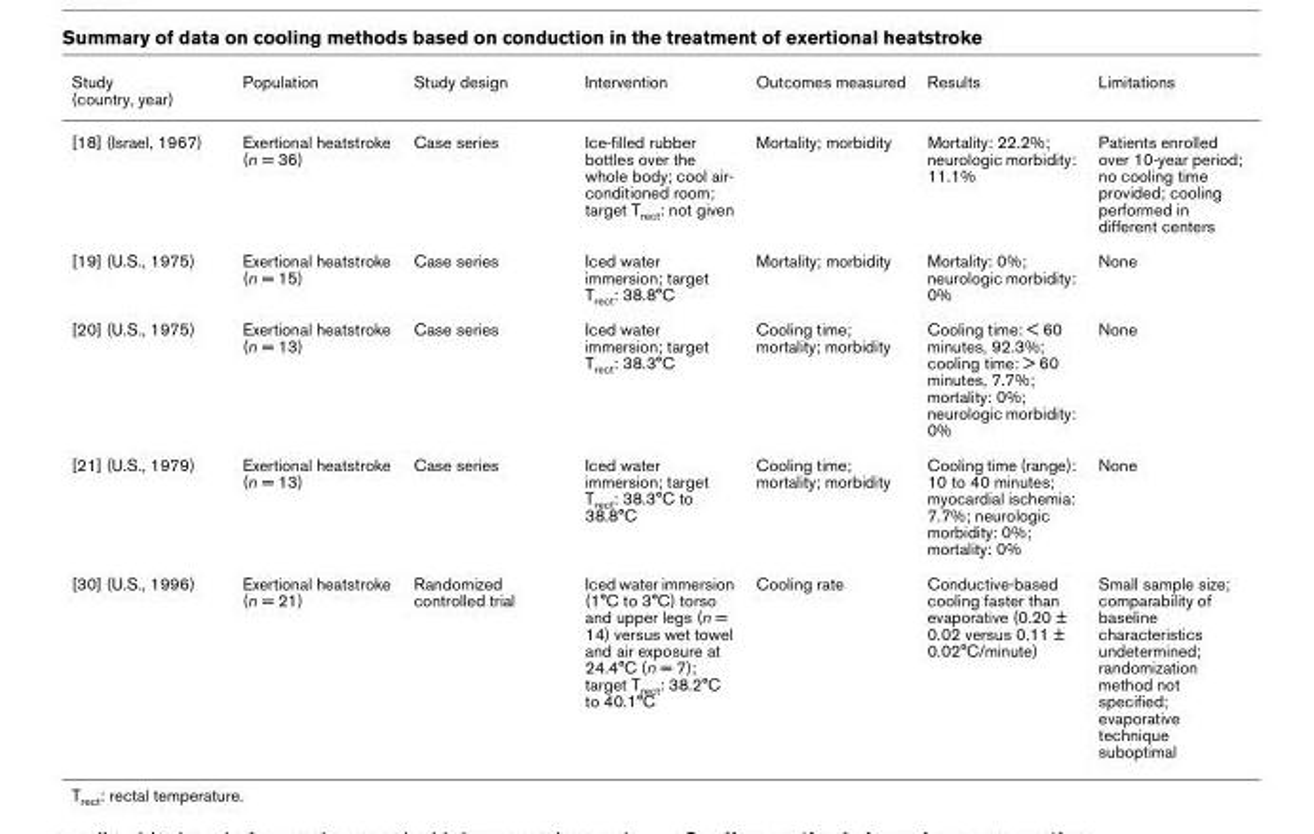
<table><thead><tr><td>Study (country, year)</td><td>Population</td><td>Study design</td><td>Intervention</td><td>Outcomes measured</td><td>Results</td><td>Limitations</td></tr></thead><tbody><tr><td>[18] (Israel, 1967)</td><td>Exertional heatstroke (n = 36)</td><td>Case series</td><td>Ice-filled rubber bottles over the whole body; cool air- conditioned room; target T<sub>rect</sub>: not given</td><td>Mortality; morbidity</td><td>Mortality: 22.2%; neurologic morbidity: 11.1%</td><td>Patients enrolled over 10-year period; no cooling time provided; cooling performed in different centers</td></tr><tr><td>[19] (U.S., 1975)</td><td>Exertional heatstroke (n = 15)</td><td>Case series</td><td>Iced water immersion; target T<sub>rect</sub>: 38.8°C</td><td>Mortality; morbidity</td><td>Mortality: 0%; neurologic morbidity: 0%</td><td>None</td></tr><tr><td>[20] (U.S., 1975)</td><td>Exertional heatstroke (n = 13)</td><td>Case series</td><td>Iced water immersion; target T<sub>rect</sub>: 38.3°C</td><td>Cooling time; mortality; morbidity</td><td>Cooling time: &lt; 60 minutes, 92.3%; cooling time: &gt; 60 minutes, 7.7%; mortality: 0%; neurologic morbidity: 0%</td><td>None</td></tr><tr><td>[21] (U.S., 1979)</td><td>Exertional heatstroke (n = 13)</td><td>Case series</td><td>Iced water immersion; target T<sub>rect</sub>: 38.3°C to 38.8°C</td><td>Cooling time; mortality; morbidity</td><td>Cooling time (range): 10 to 40 minutes; myocardial ischemia: 7.7%; neurologic morbidity: 0%; mortality: 0%</td><td>None</td></tr><tr><td>[30] (U.S., 1996)</td><td>Exertional heatstroke (n = 21)</td><td>Randomized controlled trial</td><td>Iced water immersion (1°C to 3°C) torso and upper legs (n = 14) versus wet towel and air exposure at 24.4°C (n = 7); target T<sub>rect</sub>: 38.2°C to 40.1°C</td><td>Cooling rate</td><td>Conductive-based cooling faster than evaporative (0.20 ± 0.02 versus 0.11 ± 0.02°C/minute)</td><td>Small sample size; comparability of baseline characteristics undetermined; randomization method not specified; evaporative technique suboptimal</td></tr></tbody></table>